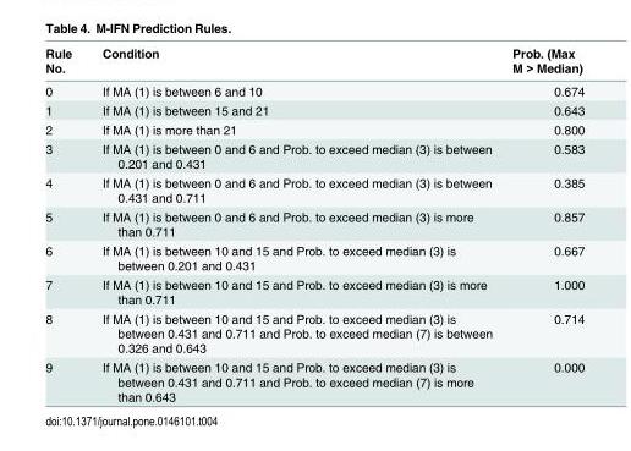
<table><thead><tr><td>Rule No.</td><td>Condition</td><td>Prob. (Max M &gt; Median)</td></tr></thead><tbody><tr><td>0</td><td>If MA (1) is between 6 and 10</td><td>0.674</td></tr><tr><td>1</td><td>If MA (1) is between 15 and 21</td><td>0.643</td></tr><tr><td>2</td><td>If MA (1) is more than 21</td><td>0.800</td></tr><tr><td>3</td><td>If MA (1) is between 0 and 6 and Prob. to exceed median (3) is between 0.201 and 0.431</td><td>0.583</td></tr><tr><td>4</td><td>If MA (1) is between 0 and 6 and Prob. to exceed median (3) is between 0.431 and 0.711</td><td>0.385</td></tr><tr><td>5</td><td>If MA (1) is between 0 and 6 and Prob. to exceed median (3) is more than 0.711</td><td>0.857</td></tr><tr><td>6</td><td>If MA (1) is between 10 and 15 and Prob. to exceed median (3) is between 0.201 and 0.431</td><td>0.667</td></tr><tr><td>7</td><td>If MA (1) is between 10 and 15 and Prob. to exceed median (3) is more than 0.711</td><td>1.000</td></tr><tr><td>8</td><td>If MA (1) is between 10 and 15 and Prob. to exceed median (3) is between 0.431 and 0.711 and Prob. to exceed median (7) is between 0.326 and 0.643</td><td>0.714</td></tr><tr><td>9</td><td>If MA (1) is between 10 and 15 and Prob. to exceed median (3) is between 0.431 and 0.711 and Prob. to exceed median (7) is more than 0.643</td><td>0.000</td></tr></tbody></table>